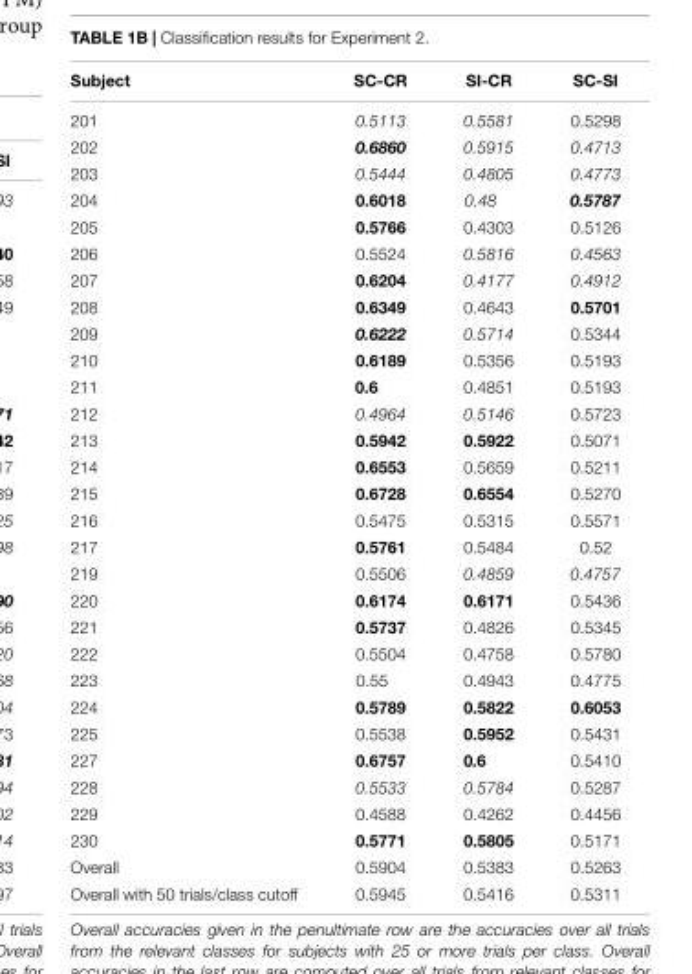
<table><thead><tr><td>Subject</td><td>SC-CR</td><td>SI-CR</td><td>SC-SI</td></tr></thead><tbody><tr><td>201</td><td>0.5113</td><td>0.5581</td><td>0.5298</td></tr><tr><td>202</td><td>0.6860</td><td>0.5915</td><td>0.4713</td></tr><tr><td>203</td><td>0.5444</td><td>0.4805</td><td>0.4773</td></tr><tr><td>204</td><td>0.6018</td><td>0.48</td><td>0.5787</td></tr><tr><td>205</td><td>0.5766</td><td>0.4303</td><td>0.5126</td></tr><tr><td>206</td><td>0.5524</td><td>0.5816</td><td>0.4563</td></tr><tr><td>207</td><td>0.6204</td><td>0.4177</td><td>0.4912</td></tr><tr><td>208</td><td>0.6349</td><td>0.4643</td><td>0.5701</td></tr><tr><td>209</td><td>0.6222</td><td>0.5714</td><td>0.5344</td></tr><tr><td>210</td><td>0.6189</td><td>0.5356</td><td>0.5193</td></tr><tr><td>211</td><td>0.6</td><td>0.4851</td><td>0.5193</td></tr><tr><td>212</td><td>0.4964</td><td>0.5146</td><td>0.5723</td></tr><tr><td>213</td><td>0.5942</td><td>0.5922</td><td>0.5071</td></tr><tr><td>214</td><td>0.6553</td><td>0.5659</td><td>0.5211</td></tr><tr><td>215</td><td>0.6728</td><td>0.6554</td><td>0.5270</td></tr><tr><td>216</td><td>0.5475</td><td>0.5315</td><td>0.5571</td></tr><tr><td>217</td><td>0.5761</td><td>0.5484</td><td>0.52</td></tr><tr><td>219</td><td>0.5506</td><td>0.4859</td><td>0.4757</td></tr><tr><td>220</td><td>0.6174</td><td>0.6171</td><td>0.5436</td></tr><tr><td>221</td><td>0.5737</td><td>0.4826</td><td>0.5345</td></tr><tr><td>222</td><td>0.5504</td><td>0.4758</td><td>0.5780</td></tr><tr><td>223</td><td>0.55</td><td>0.4943</td><td>0.4775</td></tr><tr><td>224</td><td>0.5789</td><td>0.5822</td><td>0.6053</td></tr><tr><td>225</td><td>0.5538</td><td>0.5952</td><td>0.5431</td></tr><tr><td>227</td><td>0.6757</td><td>0.6</td><td>0.5410</td></tr><tr><td>228</td><td>0.5533</td><td>0.5784</td><td>0.5287</td></tr><tr><td>229</td><td>0.4588</td><td>0.4262</td><td>0.4456</td></tr><tr><td>230</td><td>0.5771</td><td>0.5805</td><td>0.5171</td></tr><tr><td>Overall</td><td>0.5904</td><td>0.5383</td><td>0.5263</td></tr><tr><td>Overall with 50 trials/class cutoff</td><td>0.5945</td><td>0.5416</td><td>0.5311</td></tr></tbody></table>